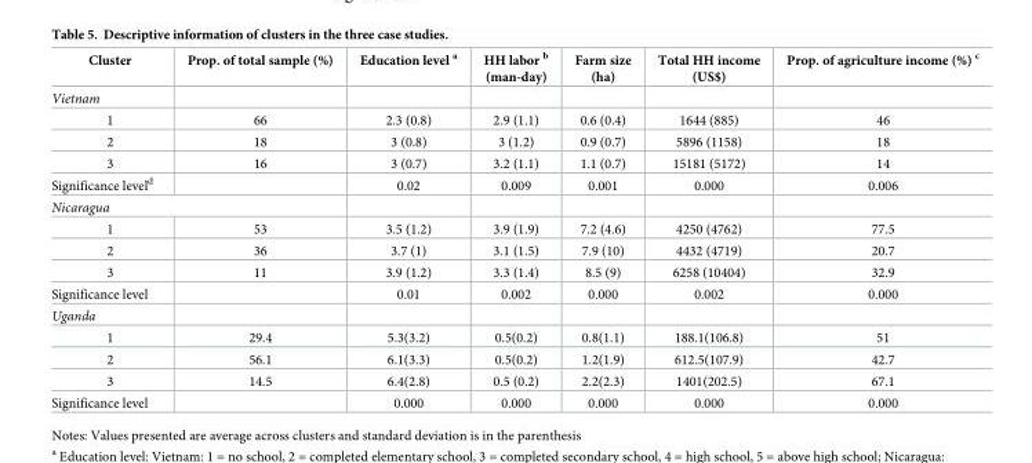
<table><thead><tr><td>Cluster</td><td>Prop. of total sample (%)</td><td>Education level <sup>a</sup></td><td>HH labor <sup>b</sup> (man-day)</td><td>Farm size (ha)</td><td>Total HH income (US$)</td><td>Prop. of agriculture income (%) <sup>c</sup></td></tr></thead><tbody><tr><td colspan="7">Vietnam</td></tr><tr><td>1</td><td>66</td><td>2.3 (0.8)</td><td>2.9 (1.1)</td><td>0.6 (0.4)</td><td>1644 (885)</td><td>46</td></tr><tr><td>2</td><td>18</td><td>3 (0.8)</td><td>3 (1.2)</td><td>0.9 (0.7)</td><td>5896 (1158)</td><td>18</td></tr><tr><td>3</td><td>16</td><td>3 (0.7)</td><td>3.2 (1.1)</td><td>1.1 (0.7)</td><td>15181 (5172)</td><td>14</td></tr><tr><td>Significance level<sup>d</sup></td><td></td><td>0.02</td><td>0.009</td><td>0.001</td><td>0.000</td><td>0.006</td></tr><tr><td colspan="7">Nicaragua</td></tr><tr><td>1</td><td>53</td><td>3.5 (1.2)</td><td>3.9 (1.9)</td><td>7.2 (4.6)</td><td>4250 (4762)</td><td>77.5</td></tr><tr><td>2</td><td>36</td><td>3.7 (1)</td><td>3.1 (1.5)</td><td>7.9 (10)</td><td>4432 (4719)</td><td>20.7</td></tr><tr><td>3</td><td>11</td><td>3.9 (1.2)</td><td>3.3 (1.4)</td><td>8.5 (9)</td><td>6258 (10404)</td><td>32.9</td></tr><tr><td>Significance level</td><td></td><td>0.01</td><td>0.002</td><td>0.000</td><td>0.002</td><td>0.000</td></tr><tr><td colspan="7">Uganda</td></tr><tr><td>1</td><td>29.4</td><td>5.3(3.2)</td><td>0.5(0.2)</td><td>0.8(1.1)</td><td>188.1(106.8)</td><td>51</td></tr><tr><td>2</td><td>56.1</td><td>6.1(3.3)</td><td>0.5(0.2)</td><td>1.2(1.9)</td><td>612.5(107.9)</td><td>42.7</td></tr><tr><td>3</td><td>14.5</td><td>6.4(2.8)</td><td>0.5 (0.2)</td><td>2.2(2.3)</td><td>1401(202.5)</td><td>67.1</td></tr><tr><td>Significance level</td><td></td><td>0.000</td><td>0.000</td><td>0.000</td><td>0.000</td><td>0.000</td></tr></tbody></table>